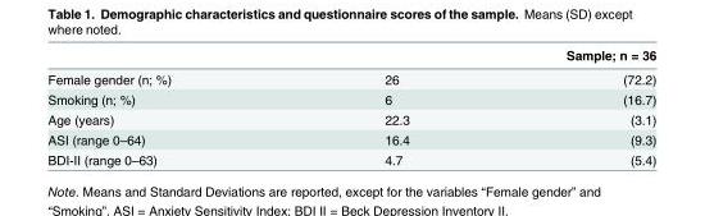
<table><thead><tr><td colspan="3">Sample; n = 36</td></tr><tr><td>Female gender (n; %)</td><td>26</td><td>(72.2)</td></tr></thead><tbody><tr><td>Smoking (n; %)</td><td>6</td><td>(16.7)</td></tr><tr><td>Age (years)</td><td>22.3</td><td>(3.1)</td></tr><tr><td>ASI (range 0–64)</td><td>16.4</td><td>(9.3)</td></tr><tr><td>BDI-II (range 0–63)</td><td>4.7</td><td>(5.4)</td></tr></tbody></table>